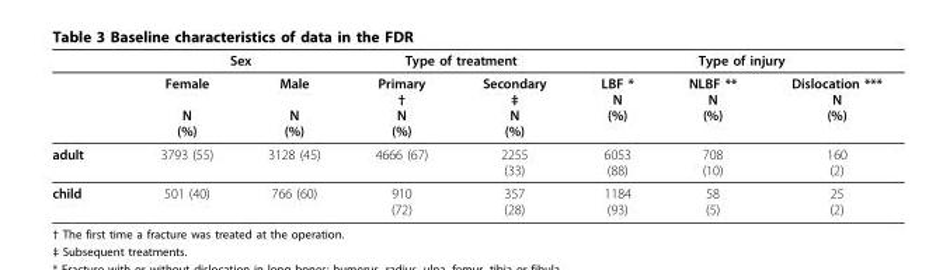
<table><thead><tr><td rowspan="2"></td><td colspan="2">Sex</td><td colspan="2">Type of treatment</td><td colspan="3">Type of injury</td></tr><tr><td>Female N (%)</td><td>Male N (%)</td><td>Primary † N (%)</td><td>Secondary ‡ N (%)</td><td>LBF * N (%)</td><td>NLBF ** N (%)</td><td>Dislocation *** N (%)</td></tr></thead><tbody><tr><td>adult</td><td>3793 (55)</td><td>3128 (45)</td><td>4666 (67)</td><td>2255 (33)</td><td>6053 (88)</td><td>708 (10)</td><td>160 (2)</td></tr><tr><td>child</td><td>501 (40)</td><td>766 (60)</td><td>910 (72)</td><td>357 (28)</td><td>1184 (93)</td><td>58 (5)</td><td>25 (2)</td></tr></tbody></table>